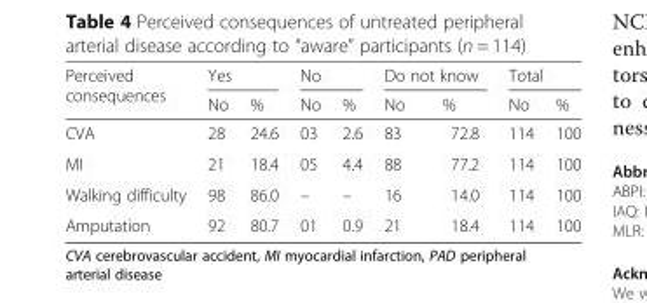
<table><thead><tr><td rowspan="2">Perceived consequences</td><td colspan="2">Yes</td><td colspan="2">No</td><td colspan="2">Do not know</td><td colspan="2">Total</td></tr><tr><td>No</td><td>%</td><td>No</td><td>%</td><td>No</td><td>%</td><td>No</td><td>%</td></tr></thead><tbody><tr><td>CVA</td><td>28</td><td>24.6</td><td>03</td><td>2.6</td><td>83</td><td>72.8</td><td>114</td><td>100</td></tr><tr><td>MI</td><td>21</td><td>18.4</td><td>05</td><td>4.4</td><td>88</td><td>77.2</td><td>114</td><td>100</td></tr><tr><td>Walking difficulty</td><td>98</td><td>86.0</td><td>–</td><td>–</td><td>16</td><td>14.0</td><td>114</td><td>100</td></tr><tr><td>Amputation</td><td>92</td><td>80.7</td><td>01</td><td>0.9</td><td>21</td><td>18.4</td><td>114</td><td>100</td></tr></tbody></table>